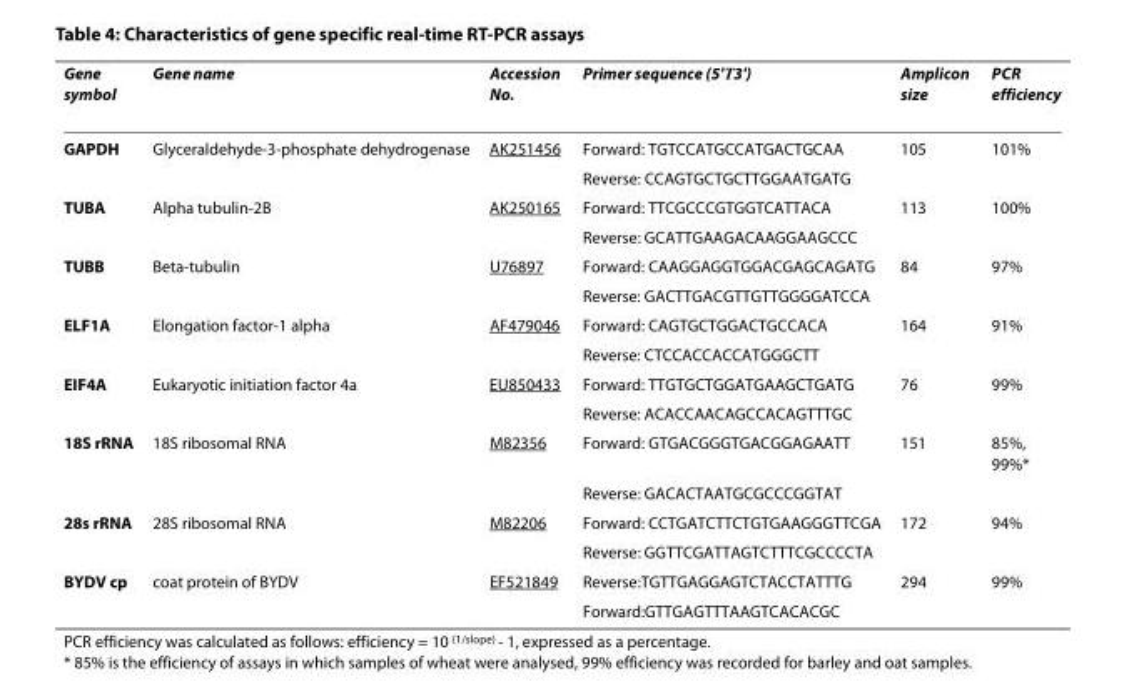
<table><thead><tr><td>Gene symbol</td><td>Gene name</td><td>Accession No.</td><td>Primer sequence (5&#x27;→3&#x27;)</td><td>Amplicon size</td><td>PCR efficiency</td></tr></thead><tbody><tr><td rowspan="2">GAPDH</td><td>Glyceraldehyde-3-phosphate dehydrogenase</td><td>AK251456</td><td>Forward: TGTCCATGCCATGACTGCAA</td><td>105</td><td>101%</td></tr><tr><td></td><td></td><td>Reverse: CCAGTGCTGCTTGGAATGATG</td><td></td><td></td></tr><tr><td rowspan="2">TUBA</td><td>Alpha tubulin-2B</td><td>AK250165</td><td>Forward: TTCGCCCGTGGTCATTACA</td><td>113</td><td>100%</td></tr><tr><td></td><td></td><td>Reverse: GCATTGAAGACAAGGAAGCCC</td><td></td><td></td></tr><tr><td rowspan="2">TUBB</td><td>Beta-tubulin</td><td>U76897</td><td>Forward: CAAGGAGGTGGACGAGCAGATG</td><td>84</td><td>97%</td></tr><tr><td></td><td></td><td>Reverse: GACTTGACGTTGTTGGGGATCCA</td><td></td><td></td></tr><tr><td rowspan="2">ELF1A</td><td>Elongation factor-1 alpha</td><td>AF479046</td><td>Forward: CAGTGCTGGACTGCCACA</td><td>164</td><td>91%</td></tr><tr><td></td><td></td><td>Reverse: CTCCACCACCATGGGCTT</td><td></td><td></td></tr><tr><td rowspan="2">EIF4A</td><td>Eukaryotic initiation factor 4a</td><td>EU850433</td><td>Forward: TTGTGCTGGATGAAGCTGATG</td><td>76</td><td>99%</td></tr><tr><td></td><td></td><td>Reverse: ACACCAACAGCCACAGTTTGC</td><td></td><td></td></tr><tr><td rowspan="2">18S rRNA</td><td>18S ribosomal RNA</td><td>M82356</td><td>Forward: GTGACGGGTGACGGAGAATT</td><td>151</td><td>85%, 99%*</td></tr><tr><td></td><td></td><td>Reverse: GACACTAATGCGCCCGGTAT</td><td></td><td></td></tr><tr><td rowspan="2">28s rRNA</td><td>28S ribosomal RNA</td><td>M82206</td><td>Forward: CCTGATCTTCTGTGAAGGGTTCGA</td><td>172</td><td>94%</td></tr><tr><td></td><td></td><td>Reverse: GGTTCGATTAGTCTTTCGCCCCTA</td><td></td><td></td></tr><tr><td rowspan="2">BYDV cp</td><td>coat protein of BYDV</td><td>EF521849</td><td>Reverse:TGTTGAGGAGTCTACCTATTTG</td><td>294</td><td>99%</td></tr><tr><td></td><td></td><td>Forward:GTTGAGTTTAAGTCACACGC</td><td></td><td></td></tr></tbody></table>